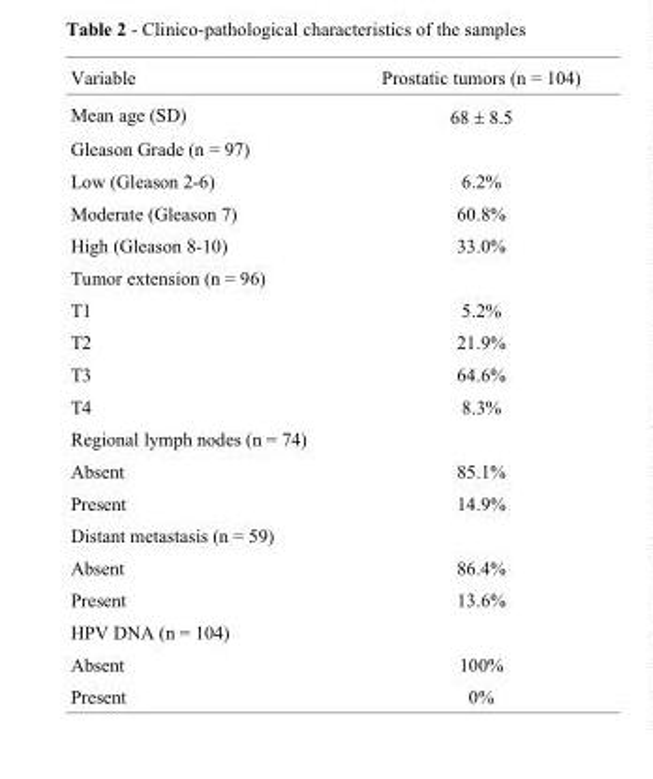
<table><thead><tr><td>Variable</td><td>Prostatic tumors (n = 104)</td></tr></thead><tbody><tr><td>Mean age (SD)</td><td>68 ± 8.5</td></tr><tr><td colspan="2">Gleason Grade (n = 97)</td></tr><tr><td>Low (Gleason 2-6)</td><td>6.2%</td></tr><tr><td>Moderate (Gleason 7)</td><td>60.8%</td></tr><tr><td>High (Gleason 8-10)</td><td>33.0%</td></tr><tr><td colspan="2">Tumor extension (n = 96)</td></tr><tr><td>T1</td><td>5.2%</td></tr><tr><td>T2</td><td>21.9%</td></tr><tr><td>T3</td><td>64.6%</td></tr><tr><td>T4</td><td>8.3%</td></tr><tr><td colspan="2">Regional lymph nodes (n = 74)</td></tr><tr><td>Absent</td><td>85.1%</td></tr><tr><td>Present</td><td>14.9%</td></tr><tr><td colspan="2">Distant metastasis (n = 59)</td></tr><tr><td>Absent</td><td>86.4%</td></tr><tr><td>Present</td><td>13.6%</td></tr><tr><td colspan="2">HPV DNA (n = 104)</td></tr><tr><td>Absent</td><td>100%</td></tr><tr><td>Present</td><td>0%</td></tr></tbody></table>